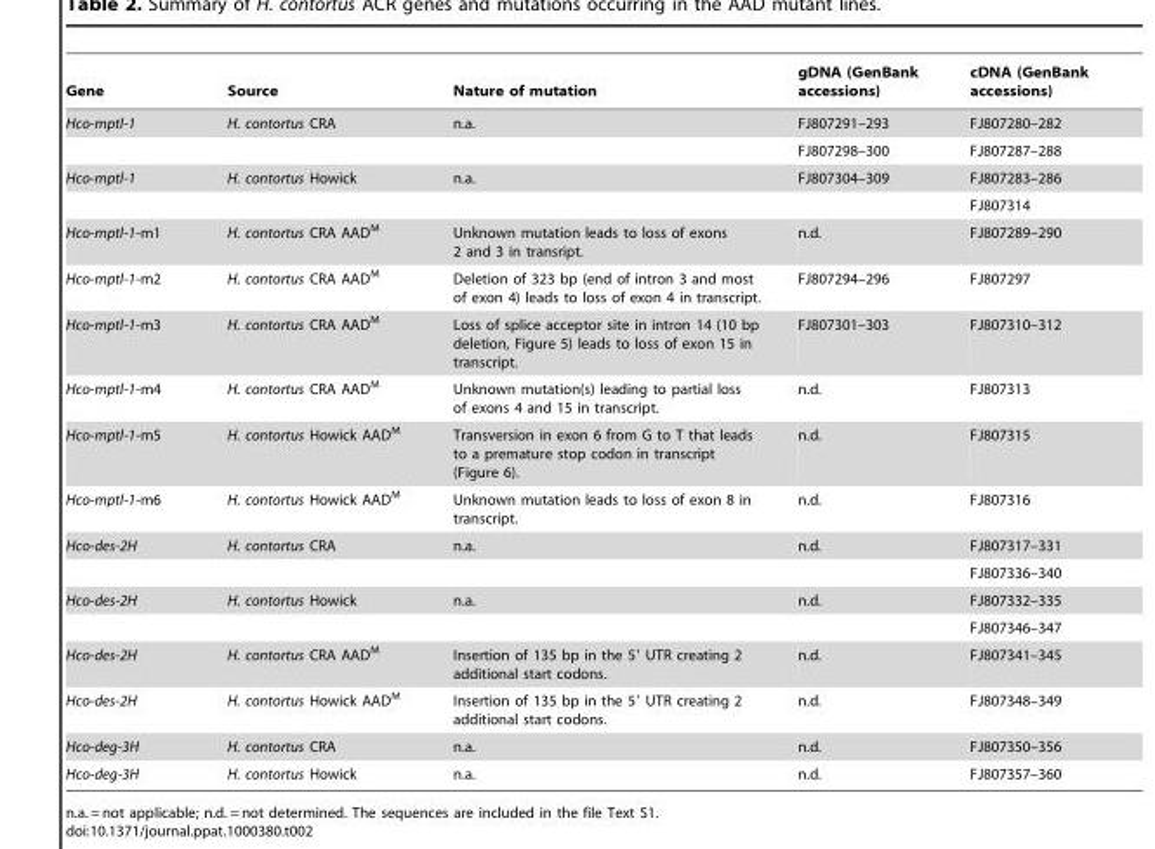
<table><thead><tr><td>Gene</td><td>Source</td><td>Nature of mutation</td><td>gDNA (GenBank accessions)</td><td>cDNA (GenBank accessions)</td></tr></thead><tbody><tr><td rowspan="2">Hco-mptl-1</td><td>H. contortus CRA</td><td>n.a.</td><td>FJ807291–293</td><td>FJ807280–282</td></tr><tr><td></td><td></td><td>FJ807298–300</td><td>FJ807287–288</td></tr><tr><td rowspan="2">Hco-mptl-1</td><td>H. contortus Howick</td><td>n.a.</td><td>FJ807304–309</td><td>FJ807283–286</td></tr><tr><td></td><td></td><td></td><td>FJ807314</td></tr><tr><td>Hco-mptl-1-m1</td><td>H. contortus CRA AAD<sup>M</sup></td><td>Unknown mutation leads to loss of exons 2 and 3 in transript.</td><td>n.d.</td><td>FJ807289–290</td></tr><tr><td>Hco-mptl-1-m2</td><td>H. contortus CRA AAD<sup>M</sup></td><td>Deletion of 323 bp (end of intron 3 and most of exon 4) leads to loss of exon 4 in transcript.</td><td>FJ807294–296</td><td>FJ807297</td></tr><tr><td>Hco-mptl-1-m3</td><td>H. contortus CRA AAD<sup>M</sup></td><td>Loss of splice acceptor site in intron 14 (10 bp deletion, Figure 5) leads to loss of exon 15 in transcript.</td><td>FJ807301–303</td><td>FJ807310–312</td></tr><tr><td>Hco-mptl-1-m4</td><td>H. contortus CRA AAD<sup>M</sup></td><td>Unknown mutation(s) leading to partial loss of exons 4 and 15 in transcript.</td><td>n.d.</td><td>FJ807313</td></tr><tr><td>Hco-mptl-1-m5</td><td>H. contortus Howick AAD<sup>M</sup></td><td>Transversion in exon 6 from G to T that leads to a premature stop codon in transcript (Figure 6).</td><td>n.d.</td><td>FJ807315</td></tr><tr><td>Hco-mptl-1-m6</td><td>H. contortus Howick AAD<sup>M</sup></td><td>Unknown mutation leads to loss of exon 8 in transcript.</td><td>n.d.</td><td>FJ807316</td></tr><tr><td rowspan="2">Hco-des-2H</td><td>H. contortus CRA</td><td>n.a.</td><td>n.d.</td><td>FJ807317–331</td></tr><tr><td></td><td></td><td></td><td>FJ807336–340</td></tr><tr><td rowspan="2">Hco-des-2H</td><td>H. contortus Howick</td><td>n.a.</td><td>n.d.</td><td>FJ807332–335</td></tr><tr><td></td><td></td><td></td><td>FJ807346–347</td></tr><tr><td>Hco-des-2H</td><td>H. contortus CRA AAD<sup>M</sup></td><td>Insertion of 135 bp in the 5′ UTR creating 2 additional start codons.</td><td>n.d.</td><td>FJ807341–345</td></tr><tr><td>Hco-des-2H</td><td>H. contortus Howick AAD<sup>M</sup></td><td>Insertion of 135 bp in the 5′ UTR creating 2 additional start codons.</td><td>n.d.</td><td>FJ807348–349</td></tr><tr><td>Hco-deg-3H</td><td>H. contortus CRA</td><td>n.a.</td><td>n.d.</td><td>FJ807350–356</td></tr><tr><td>Hco-deg-3H</td><td>H. contortus Howick</td><td>n.a.</td><td>n.d.</td><td>FJ807357–360</td></tr></tbody></table>